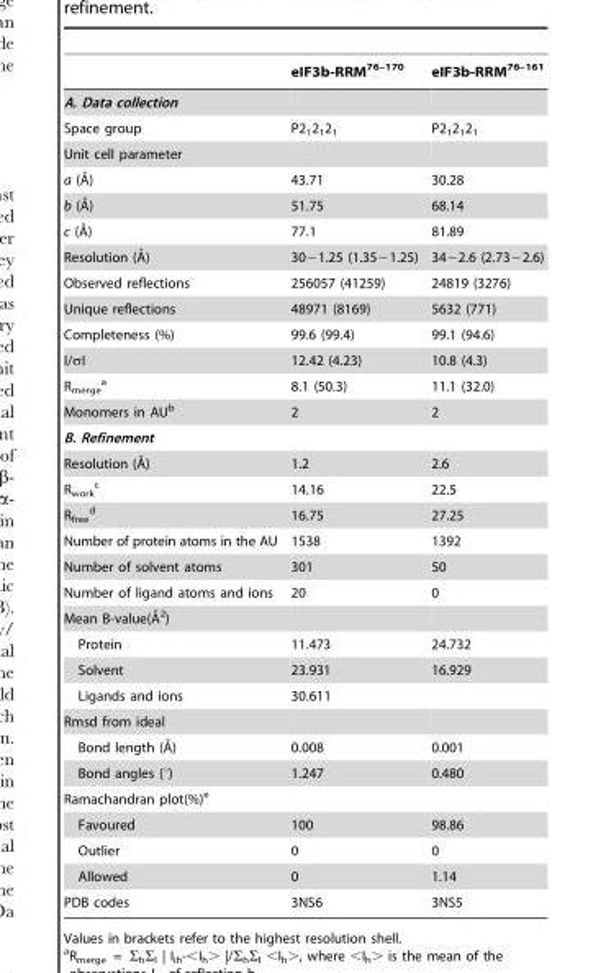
<table><thead><tr><td></td><td>eIF3b-RRM<sup>76–170</sup></td><td>eIF3b-RRM<sup>76–161</sup></td></tr></thead><tbody><tr><td colspan="3">A. Data collection</td></tr><tr><td>Space group</td><td>P2<sub>1</sub>2<sub>1</sub>2<sub>1</sub></td><td>P2<sub>1</sub>2<sub>1</sub>2<sub>1</sub></td></tr><tr><td colspan="3">Unit cell parameter</td></tr><tr><td>a (A˚)</td><td>43.71</td><td>30.28</td></tr><tr><td>b (A˚)</td><td>51.75</td><td>68.14</td></tr><tr><td>c (A˚)</td><td>77.1</td><td>81.89</td></tr><tr><td>Resolution (A˚)</td><td>30−1.25 (1.35−1.25)</td><td>34−2.6 (2.73−2.6)</td></tr><tr><td>Observed reflections</td><td>256057 (41259)</td><td>24819 (3276)</td></tr><tr><td>Unique reflections</td><td>48971 (8169)</td><td>5632 (771)</td></tr><tr><td>Completeness (%)</td><td>99.6 (99.4)</td><td>99.1 (94.6)</td></tr><tr><td>I/σI</td><td>12.42 (4.23)</td><td>10.8 (4.3)</td></tr><tr><td>R<sub>merge</sub> a</td><td>8.1 (50.3)</td><td>11.1 (32.0)</td></tr><tr><td>Monomers in AU<sup>b</sup></td><td>2</td><td>2</td></tr><tr><td colspan="3">B. Refinement</td></tr><tr><td>Resolution (A˚)</td><td>1.2</td><td>2.6</td></tr><tr><td>R<sub>work</sub> c</td><td>14.16</td><td>22.5</td></tr><tr><td>R<sub>free</sub> d</td><td>16.75</td><td>27.25</td></tr><tr><td>Number of protein atoms in the AU</td><td>1538</td><td>1392</td></tr><tr><td>Number of solvent atoms</td><td>301</td><td>50</td></tr><tr><td>Number of ligand atoms and ions</td><td>20</td><td>0</td></tr><tr><td colspan="3">Mean B-value(A˚2)</td></tr><tr><td>Protein</td><td>11.473</td><td>24.732</td></tr><tr><td>Solvent</td><td>23.931</td><td>16.929</td></tr><tr><td>Ligands and ions</td><td>30.611</td><td></td></tr><tr><td colspan="3">Rmsd from ideal</td></tr><tr><td>Bond length (A˚)</td><td>0.008</td><td>0.001</td></tr><tr><td>Bond angles (°)</td><td>1.247</td><td>0.480</td></tr><tr><td colspan="3">Ramachandran plot(%)<sup>e</sup></td></tr><tr><td>Favoured</td><td>100</td><td>98.86</td></tr><tr><td>Outlier</td><td>0</td><td>0</td></tr><tr><td>Allowed</td><td>0</td><td>1.14</td></tr><tr><td>PDB codes</td><td>3NS6</td><td>3NS5</td></tr></tbody></table>